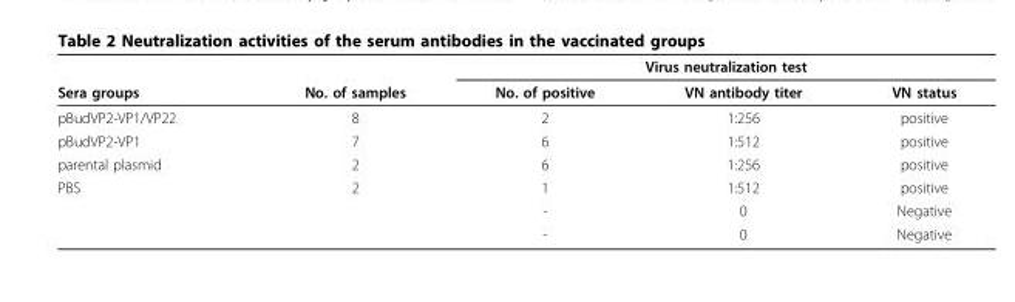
<table><thead><tr><td rowspan="2">Sera groups</td><td rowspan="2">No. of samples</td><td colspan="3">Virus neutralization test</td></tr><tr><td>No. of positive</td><td>VN antibody titer</td><td>VN status</td></tr></thead><tbody><tr><td>pBudVP2-VP1/VP22</td><td>8</td><td>2</td><td>1:256</td><td>positive</td></tr><tr><td>pBudVP2-VP1</td><td>7</td><td>6</td><td>1:512</td><td>positive</td></tr><tr><td>parental plasmid</td><td>2</td><td>6</td><td>1:256</td><td>positive</td></tr><tr><td rowspan="3">PBS</td><td>2</td><td>1</td><td>1:512</td><td>positive</td></tr><tr><td></td><td>-</td><td>0</td><td>Negative</td></tr><tr><td></td><td>-</td><td>0</td><td>Negative</td></tr></tbody></table>